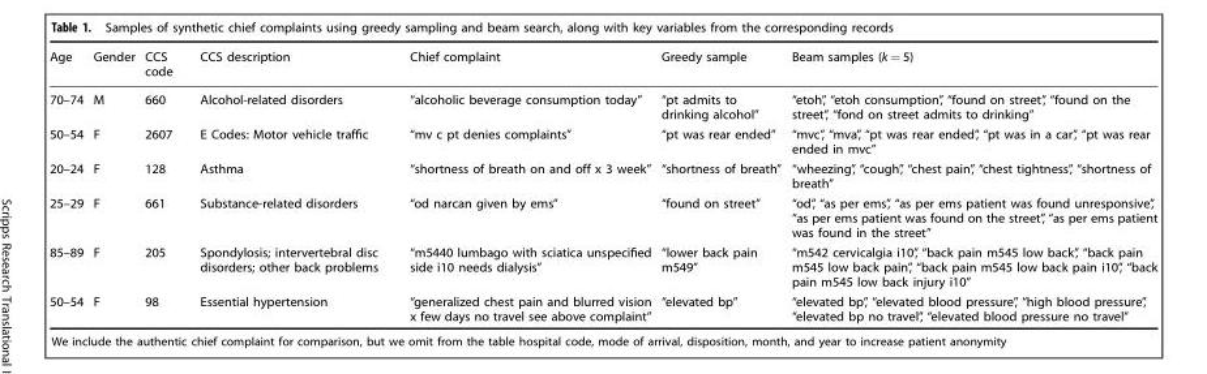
<table><thead><tr><td>Age</td><td>Gender</td><td>CCS code</td><td>CCS description</td><td>Chief complaint</td><td>Greedy sample</td><td>Beam samples (k = 5)</td></tr></thead><tbody><tr><td>70–74</td><td>M</td><td>660</td><td>Alcohol-related disorders</td><td>“alcoholic beverage consumption today”</td><td>“pt admits to drinking alcohol”</td><td>“etoh”, “etoh consumption”, “found on street”, “found on the street”, “fond on street admits to drinking”</td></tr><tr><td>50–54</td><td>F</td><td>2607</td><td>E Codes: Motor vehicle traffic</td><td>“mv c pt denies complaints”</td><td>“pt was rear ended”</td><td>“mvc”, “mva”, “pt was rear ended”, “pt was in a car”, “pt was rear ended in mvc”</td></tr><tr><td>20–24</td><td>F</td><td>128</td><td>Asthma</td><td>“shortness of breath on and off x 3 week”</td><td>“shortness of breath”</td><td>“wheezing”, “cough”, “chest pain”, “chest tightness”, “shortness of breath”</td></tr><tr><td>25–29</td><td>F</td><td>661</td><td>Substance-related disorders</td><td>“od narcan given by ems”</td><td>“found on street”</td><td>“od”, “as per ems”, “as per ems patient was found unresponsive”, “as per ems patient was found on the street”, “as per ems patient was found in the street”</td></tr><tr><td>85–89</td><td>F</td><td>205</td><td>Spondylosis; intervertebral disc disorders; other back problems</td><td>“m5440 lumbago with sciatica unspecified side i10 needs dialysis”</td><td>“lower back pain m549”</td><td>“m542 cervicalgia i10”, “back pain m545 low back”, “back pain m545 low back pain”, “back pain m545 low back pain i10”, “back pain m545 low back injury i10”</td></tr><tr><td>50–54</td><td>F</td><td>98</td><td>Essential hypertension</td><td>“generalized chest pain and blurred vision x few days no travel see above complaint”</td><td>“elevated bp”</td><td>“elevated bp”, “elevated blood pressure”, “high blood pressure”, “elevated bp no travel”, “elevated blood pressure no travel”</td></tr></tbody></table>